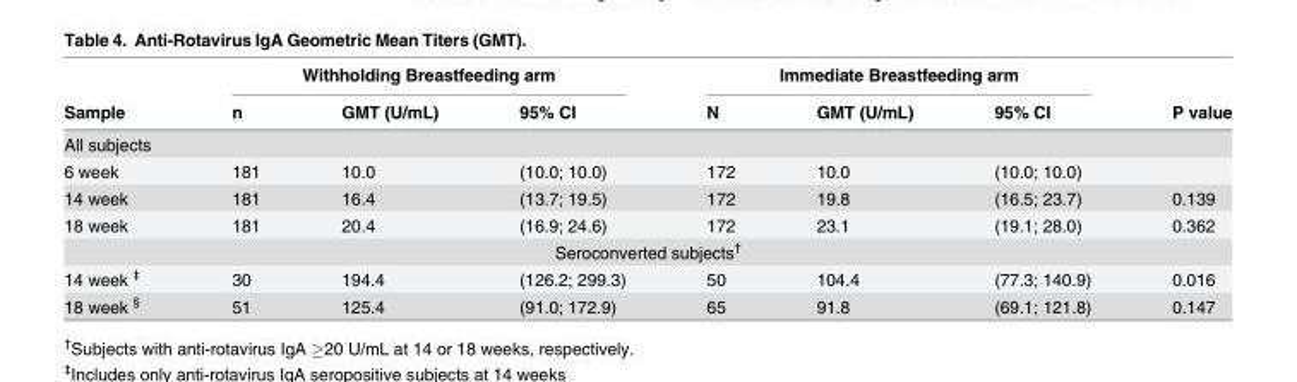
<table><thead><tr><td rowspan="2">Sample</td><td colspan="3">Withholding Breastfeeding arm</td><td colspan="3">Immediate Breastfeeding arm</td><td rowspan="2">P value</td></tr><tr><td>n</td><td>GMT (U/mL)</td><td>95% CI</td><td>N</td><td>GMT (U/mL)</td><td>95% CI</td></tr></thead><tbody><tr><td colspan="8">All subjects</td></tr><tr><td>6 week</td><td>181</td><td>10.0</td><td>(10.0; 10.0)</td><td>172</td><td>10.0</td><td>(10.0; 10.0)</td><td></td></tr><tr><td>14 week</td><td>181</td><td>16.4</td><td>(13.7; 19.5)</td><td>172</td><td>19.8</td><td>(16.5; 23.7)</td><td>0.139</td></tr><tr><td>18 week</td><td>181</td><td>20.4</td><td>(16.9; 24.6)</td><td>172</td><td>23.1</td><td>(19.1; 28.0)</td><td>0.362</td></tr><tr><td colspan="8">Seroconverted subjects<sup>†</sup></td></tr><tr><td>14 week <sup>‡</sup></td><td>30</td><td>194.4</td><td>(126.2; 299.3)</td><td>50</td><td>104.4</td><td>(77.3; 140.9)</td><td>0.016</td></tr><tr><td>18 week <sup>§</sup></td><td>51</td><td>125.4</td><td>(91.0; 172.9)</td><td>65</td><td>91.8</td><td>(69.1; 121.8)</td><td>0.147</td></tr></tbody></table>